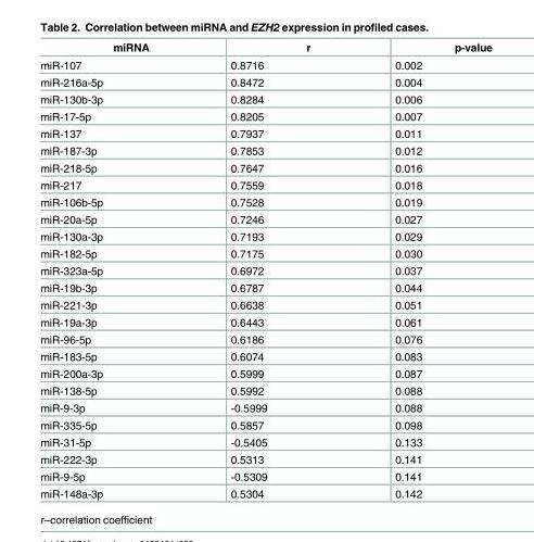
<table><thead><tr><td>miRNA</td><td>r</td><td>p-value</td></tr></thead><tbody><tr><td>miR-107</td><td>0.8716</td><td>0.002</td></tr><tr><td>miR-216a-5p</td><td>0.8472</td><td>0.004</td></tr><tr><td>miR-130b-3p</td><td>0.8284</td><td>0.006</td></tr><tr><td>miR-17-5p</td><td>0.8205</td><td>0.007</td></tr><tr><td>miR-137</td><td>0.7937</td><td>0.011</td></tr><tr><td>miR-187-3p</td><td>0.7853</td><td>0.012</td></tr><tr><td>miR-218-5p</td><td>0.7647</td><td>0.016</td></tr><tr><td>miR-217</td><td>0.7559</td><td>0.018</td></tr><tr><td>miR-106b-5p</td><td>0.7528</td><td>0.019</td></tr><tr><td>miR-20a-5p</td><td>0.7246</td><td>0.027</td></tr><tr><td>miR-130a-3p</td><td>0.7193</td><td>0.029</td></tr><tr><td>miR-182-5p</td><td>0.7175</td><td>0.030</td></tr><tr><td>miR-323a-5p</td><td>0.6972</td><td>0.037</td></tr><tr><td>miR-19b-3p</td><td>0.6787</td><td>0.044</td></tr><tr><td>miR-221-3p</td><td>0.6638</td><td>0.051</td></tr><tr><td>miR-19a-3p</td><td>0.6443</td><td>0.061</td></tr><tr><td>miR-96-5p</td><td>0.6186</td><td>0.076</td></tr><tr><td>miR-183-5p</td><td>0.6074</td><td>0.083</td></tr><tr><td>miR-200a-3p</td><td>0.5999</td><td>0.087</td></tr><tr><td>miR-138-5p</td><td>0.5992</td><td>0.088</td></tr><tr><td>miR-9-3p</td><td>-0.5999</td><td>0.088</td></tr><tr><td>miR-335-5p</td><td>0.5857</td><td>0.098</td></tr><tr><td>miR-31-5p</td><td>-0.5405</td><td>0.133</td></tr><tr><td>miR-222-3p</td><td>0.5313</td><td>0.141</td></tr><tr><td>miR-9-5p</td><td>-0.5309</td><td>0.141</td></tr><tr><td>miR-148a-3p</td><td>0.5304</td><td>0.142</td></tr></tbody></table>